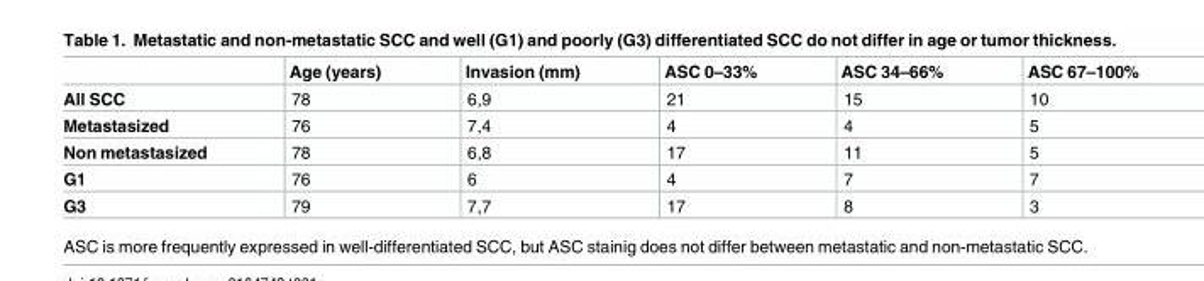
<table><thead><tr><td></td><td>Age (years)</td><td>Invasion (mm)</td><td>ASC 0–33%</td><td>ASC 34–66%</td><td>ASC 67–100%</td></tr></thead><tbody><tr><td>All SCC</td><td>78</td><td>6,9</td><td>21</td><td>15</td><td>10</td></tr><tr><td>Metastasized</td><td>76</td><td>7,4</td><td>4</td><td>4</td><td>5</td></tr><tr><td>Non metastasized</td><td>78</td><td>6,8</td><td>17</td><td>11</td><td>5</td></tr><tr><td>G1</td><td>76</td><td>6</td><td>4</td><td>7</td><td>7</td></tr><tr><td>G3</td><td>79</td><td>7,7</td><td>17</td><td>8</td><td>3</td></tr></tbody></table>